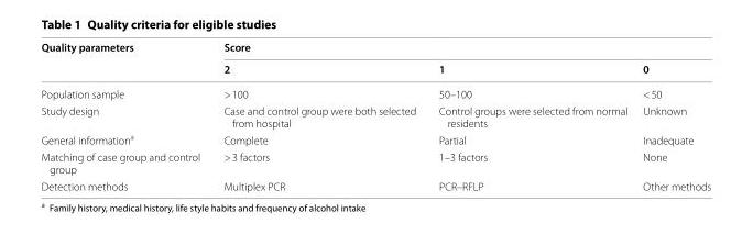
<table><thead><tr><td rowspan="2">Quality parameters</td><td colspan="3">Score</td></tr><tr><td>2</td><td>1</td><td>0</td></tr></thead><tbody><tr><td>Population sample</td><td>&gt; 100</td><td>50–100</td><td>&lt; 50</td></tr><tr><td>Study design</td><td>Case and control group were both selected from hospital</td><td>Control groups were selected from normal residents</td><td>Unknown</td></tr><tr><td>General information<sup>a</sup></td><td>Complete</td><td>Partial</td><td>Inadequate</td></tr><tr><td>Matching of case group and control group</td><td>&gt; 3 factors</td><td>1–3 factors</td><td>None</td></tr><tr><td>Detection methods</td><td>Multiplex PCR</td><td>PCR–RFLP</td><td>Other methods</td></tr></tbody></table>